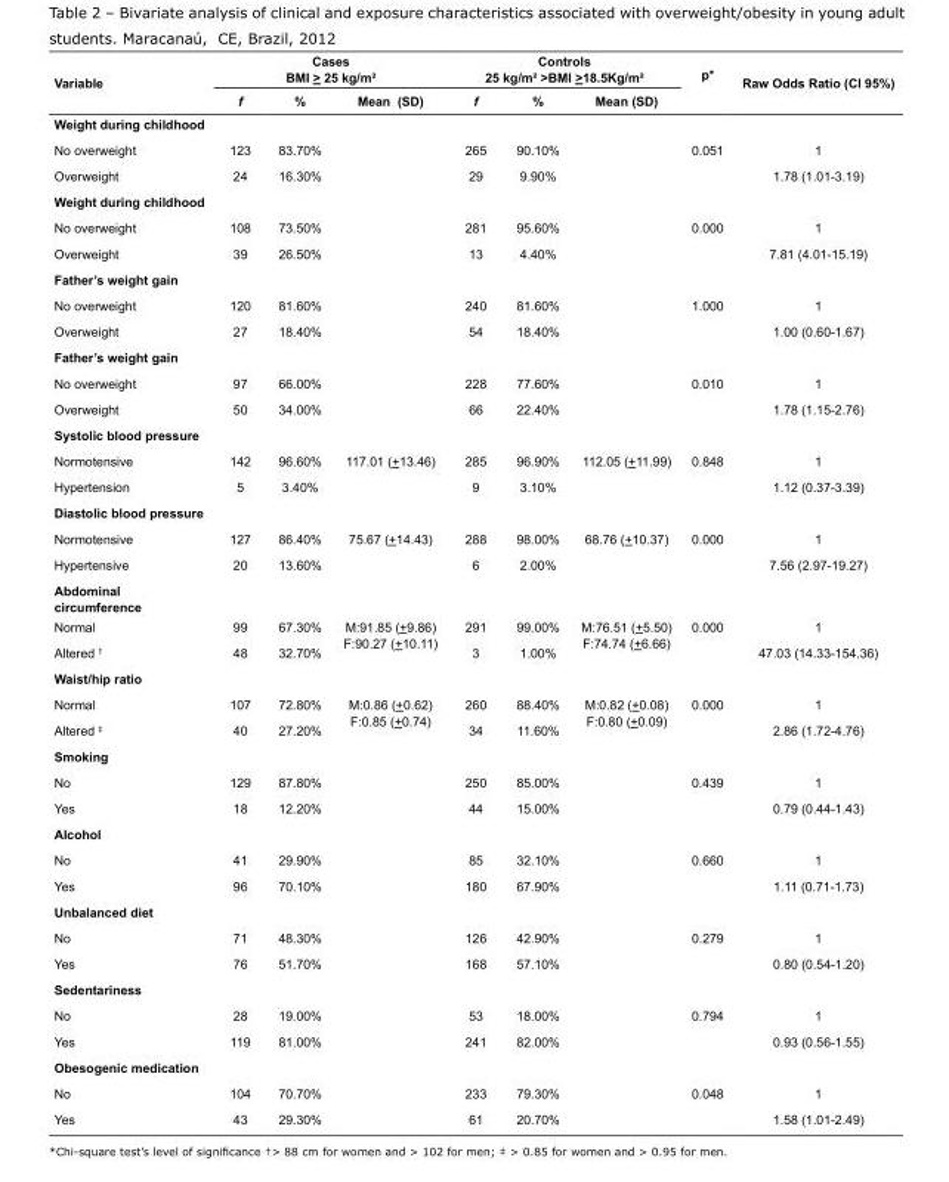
<table><thead><tr><td rowspan="2">Variable</td><td colspan="3">Cases BMI &gt; 25 kg/m²</td><td colspan="3">Controls 25 kg/m² &gt;BMI &gt;18.5Kg/m²</td><td rowspan="2">p*</td><td rowspan="2">Raw Odds Ratio (CI 95%)</td></tr><tr><td>f</td><td>%</td><td>Mean (SD)</td><td>f</td><td>%</td><td>Mean (SD)</td></tr></thead><tbody><tr><td colspan="9">Weight during childhood</td></tr><tr><td>No overweight</td><td>123</td><td>83.70%</td><td></td><td>265</td><td>90.10%</td><td></td><td>0.051</td><td>1</td></tr><tr><td>Overweight</td><td>24</td><td>16.30%</td><td></td><td>29</td><td>9.90%</td><td></td><td></td><td>1.78 (1.01-3.19)</td></tr><tr><td colspan="9">Weight during childhood</td></tr><tr><td>No overweight</td><td>108</td><td>73.50%</td><td></td><td>281</td><td>95.60%</td><td></td><td>0.000</td><td>1</td></tr><tr><td>Overweight</td><td>39</td><td>26.50%</td><td></td><td>13</td><td>4.40%</td><td></td><td></td><td>7.81 (4.01-15.19)</td></tr><tr><td colspan="9">Father’s weight gain</td></tr><tr><td>No overweight</td><td>120</td><td>81.60%</td><td></td><td>240</td><td>81.60%</td><td></td><td>1.000</td><td>1</td></tr><tr><td>Overweight</td><td>27</td><td>18.40%</td><td></td><td>54</td><td>18.40%</td><td></td><td></td><td>1.00 (0.60-1.67)</td></tr><tr><td colspan="9">Father’s weight gain</td></tr><tr><td>No overweight</td><td>97</td><td>66.00%</td><td></td><td>228</td><td>77.60%</td><td></td><td>0.010</td><td>1</td></tr><tr><td>Overweight</td><td>50</td><td>34.00%</td><td></td><td>66</td><td>22.40%</td><td></td><td></td><td>1.78 (1.15-2.76)</td></tr><tr><td colspan="9">Systolic blood pressure</td></tr><tr><td>Normotensive</td><td>142</td><td>96.60%</td><td rowspan="2">117.01 (+13.46)</td><td>285</td><td>96.90%</td><td rowspan="2">112.05 (+11.99)</td><td>0.848</td><td>1</td></tr><tr><td>Hypertension</td><td>5</td><td>3.40%</td><td>9</td><td>3.10%</td><td></td><td>1.12 (0.37-3.39)</td></tr><tr><td colspan="9">Diastolic blood pressure</td></tr><tr><td>Normotensive</td><td>127</td><td>86.40%</td><td rowspan="2">75.67 (+14.43)</td><td>288</td><td>98.00%</td><td rowspan="2">68.76 (+10.37)</td><td>0.000</td><td>1</td></tr><tr><td>Hypertensive</td><td>20</td><td>13.60%</td><td>6</td><td>2.00%</td><td></td><td>7.56 (2.97-19.27)</td></tr><tr><td colspan="9">Abdominal circumference</td></tr><tr><td>Normal</td><td>99</td><td>67.30%</td><td rowspan="2">M:91.85 (+9.86) F:90.27 (+10.11)</td><td>291</td><td>99.00%</td><td rowspan="2">M:76.51 (+5.50) F:74.74 (+6.66)</td><td>0.000</td><td>1</td></tr><tr><td>Altered <sup>†</sup></td><td>48</td><td>32.70%</td><td>3</td><td>1.00%</td><td></td><td>47.03 (14.33-154.36)</td></tr><tr><td colspan="9">Waist/hip ratio</td></tr><tr><td>Normal</td><td>107</td><td>72.80%</td><td rowspan="2">M:0.86 (+0.62) F:0.85 (+0.74)</td><td>260</td><td>88.40%</td><td rowspan="2">M:0.82 (+0.08) F:0.80 (+0.09)</td><td>0.000</td><td>1</td></tr><tr><td>Altered <sup>‡</sup></td><td>40</td><td>27.20%</td><td>34</td><td>11.60%</td><td></td><td>2.86 (1.72-4.76)</td></tr><tr><td colspan="9">Smoking</td></tr><tr><td>No</td><td>129</td><td>87.80%</td><td></td><td>250</td><td>85.00%</td><td></td><td>0.439</td><td>1</td></tr><tr><td>Yes</td><td>18</td><td>12.20%</td><td></td><td>44</td><td>15.00%</td><td></td><td></td><td>0.79 (0.44-1.43)</td></tr><tr><td colspan="9">Alcohol</td></tr><tr><td>No</td><td>41</td><td>29.90%</td><td></td><td>85</td><td>32.10%</td><td></td><td>0.660</td><td>1</td></tr><tr><td>Yes</td><td>96</td><td>70.10%</td><td></td><td>180</td><td>67.90%</td><td></td><td></td><td>1.11 (0.71-1.73)</td></tr><tr><td colspan="9">Unbalanced diet</td></tr><tr><td>No</td><td>71</td><td>48.30%</td><td></td><td>126</td><td>42.90%</td><td></td><td>0.279</td><td>1</td></tr><tr><td>Yes</td><td>76</td><td>51.70%</td><td></td><td>168</td><td>57.10%</td><td></td><td></td><td>0.80 (0.54-1.20)</td></tr><tr><td colspan="9">Sedentariness</td></tr><tr><td>No</td><td>28</td><td>19.00%</td><td></td><td>53</td><td>18.00%</td><td></td><td>0.794</td><td>1</td></tr><tr><td>Yes</td><td>119</td><td>81.00%</td><td></td><td>241</td><td>82.00%</td><td></td><td></td><td>0.93 (0.56-1.55)</td></tr><tr><td colspan="9">Obesogenic medication</td></tr><tr><td>No</td><td>104</td><td>70.70%</td><td></td><td>233</td><td>79.30%</td><td></td><td>0.048</td><td>1</td></tr><tr><td>Yes</td><td>43</td><td>29.30%</td><td></td><td>61</td><td>20.70%</td><td></td><td></td><td>1.58 (1.01-2.49)</td></tr></tbody></table>